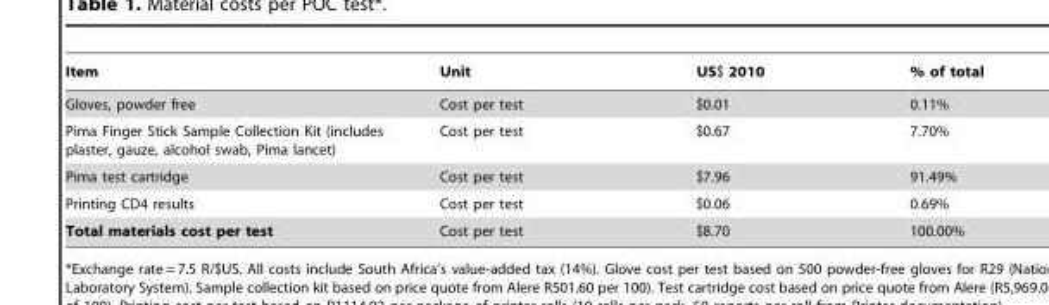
<table><thead><tr><td>Item</td><td>Unit</td><td>US$ 2010</td><td>% of total</td></tr></thead><tbody><tr><td>Gloves, powder free</td><td>Cost per test</td><td>$0.01</td><td>0.11%</td></tr><tr><td>Pima Finger Stick Sample Collection Kit (includes plaster, gauze, alcohol swab, Pima lancet)</td><td>Cost per test</td><td>$0.67</td><td>7.70%</td></tr><tr><td>Pima test cartridge</td><td>Cost per test</td><td>$7.96</td><td>91.49%</td></tr><tr><td>Printing CD4 results</td><td>Cost per test</td><td>$0.06</td><td>0.69%</td></tr><tr><td>Total materials cost per test</td><td>Cost per test</td><td>$8.70</td><td>100.00%</td></tr></tbody></table>